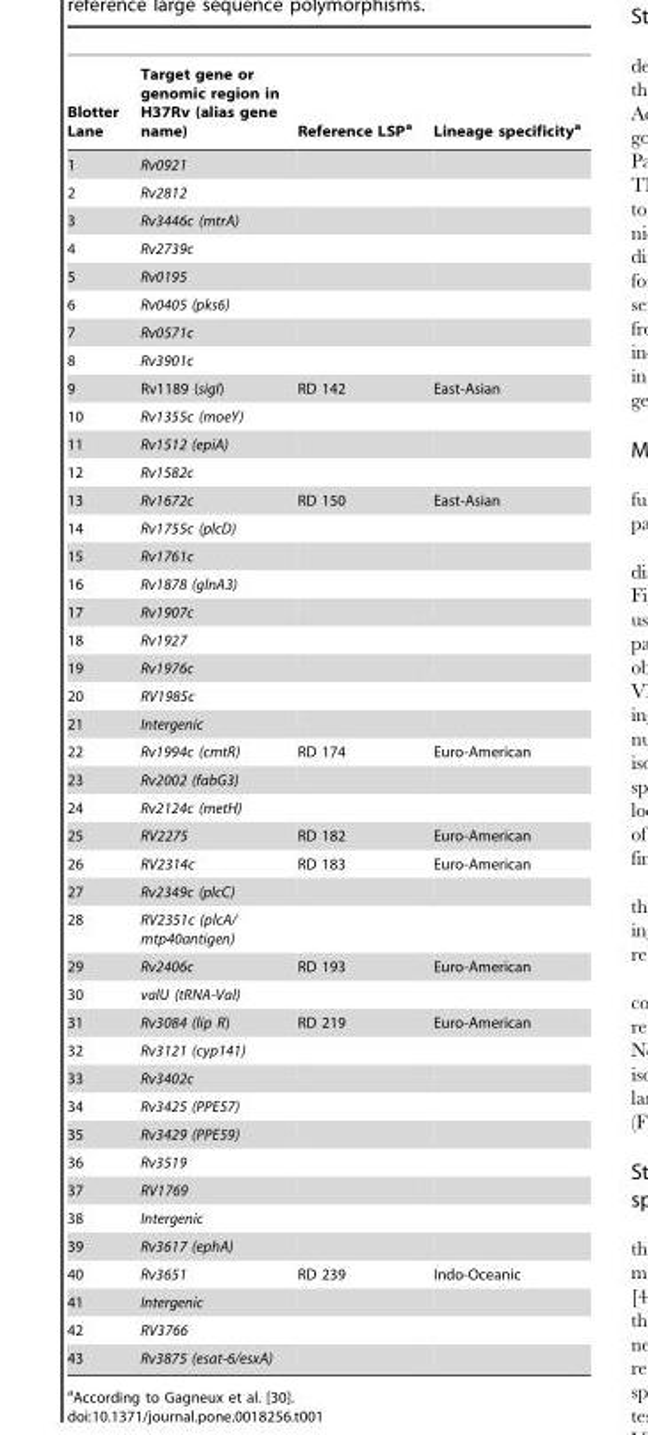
<table><thead><tr><td>Blotter Lane</td><td>Target gene or genomic region in H37Rv (alias gene name)</td><td>Reference LSP<sup>a</sup></td><td>Lineage specificity<sup>a</sup></td></tr></thead><tbody><tr><td>1</td><td>Rv0921</td><td></td><td></td></tr><tr><td>2</td><td>Rv2812</td><td></td><td></td></tr><tr><td>3</td><td>Rv3446c (mtrA)</td><td></td><td></td></tr><tr><td>4</td><td>Rv2739c</td><td></td><td></td></tr><tr><td>5</td><td>Rv0195</td><td></td><td></td></tr><tr><td>6</td><td>Rv0405 (pks6)</td><td></td><td></td></tr><tr><td>7</td><td>Rv0571c</td><td></td><td></td></tr><tr><td>8</td><td>Rv3901c</td><td></td><td></td></tr><tr><td>9</td><td>Rv1189 (sigI)</td><td>RD 142</td><td>East-Asian</td></tr><tr><td>10</td><td>Rv1355c (moeY)</td><td></td><td></td></tr><tr><td>11</td><td>Rv1512 (epiA)</td><td></td><td></td></tr><tr><td>12</td><td>Rv1582c</td><td></td><td></td></tr><tr><td>13</td><td>Rv1672c</td><td>RD 150</td><td>East-Asian</td></tr><tr><td>14</td><td>Rv1755c (plcD)</td><td></td><td></td></tr><tr><td>15</td><td>Rv1761c</td><td></td><td></td></tr><tr><td>16</td><td>Rv1878 (glnA3)</td><td></td><td></td></tr><tr><td>17</td><td>Rv1907c</td><td></td><td></td></tr><tr><td>18</td><td>Rv1927</td><td></td><td></td></tr><tr><td>19</td><td>Rv1976c</td><td></td><td></td></tr><tr><td>20</td><td>RV1985c</td><td></td><td></td></tr><tr><td>21</td><td>Intergenic</td><td></td><td></td></tr><tr><td>22</td><td>Rv1994c (cmtR)</td><td>RD 174</td><td>Euro-American</td></tr><tr><td>23</td><td>Rv2002 (fabG3)</td><td></td><td></td></tr><tr><td>24</td><td>Rv2124c (metH)</td><td></td><td></td></tr><tr><td>25</td><td>RV2275</td><td>RD 182</td><td>Euro-American</td></tr><tr><td>26</td><td>RV2314c</td><td>RD 183</td><td>Euro-American</td></tr><tr><td>27</td><td>Rv2349c (plcC)</td><td></td><td></td></tr><tr><td>28</td><td>RV2351c (plcA/ mtp40antigen)</td><td></td><td></td></tr><tr><td>29</td><td>Rv2406c</td><td>RD 193</td><td>Euro-American</td></tr><tr><td>30</td><td>valU (tRNA-Val)</td><td></td><td></td></tr><tr><td>31</td><td>Rv3084 (lip R)</td><td>RD 219</td><td>Euro-American</td></tr><tr><td>32</td><td>Rv3121 (cyp141)</td><td></td><td></td></tr><tr><td>33</td><td>Rv3402c</td><td></td><td></td></tr><tr><td>34</td><td>Rv3425 (PPE57)</td><td></td><td></td></tr><tr><td>35</td><td>Rv3429 (PPE59)</td><td></td><td></td></tr><tr><td>36</td><td>Rv3519</td><td></td><td></td></tr><tr><td>37</td><td>RV1769</td><td></td><td></td></tr><tr><td>38</td><td>Intergenic</td><td></td><td></td></tr><tr><td>39</td><td>Rv3617 (ephA)</td><td></td><td></td></tr><tr><td>40</td><td>Rv3651</td><td>RD 239</td><td>Indo-Oceanic</td></tr><tr><td>41</td><td>Intergenic</td><td></td><td></td></tr><tr><td>42</td><td>RV3766</td><td></td><td></td></tr><tr><td>43</td><td>Rv3875 (esat-6/esxA)</td><td></td><td></td></tr></tbody></table>